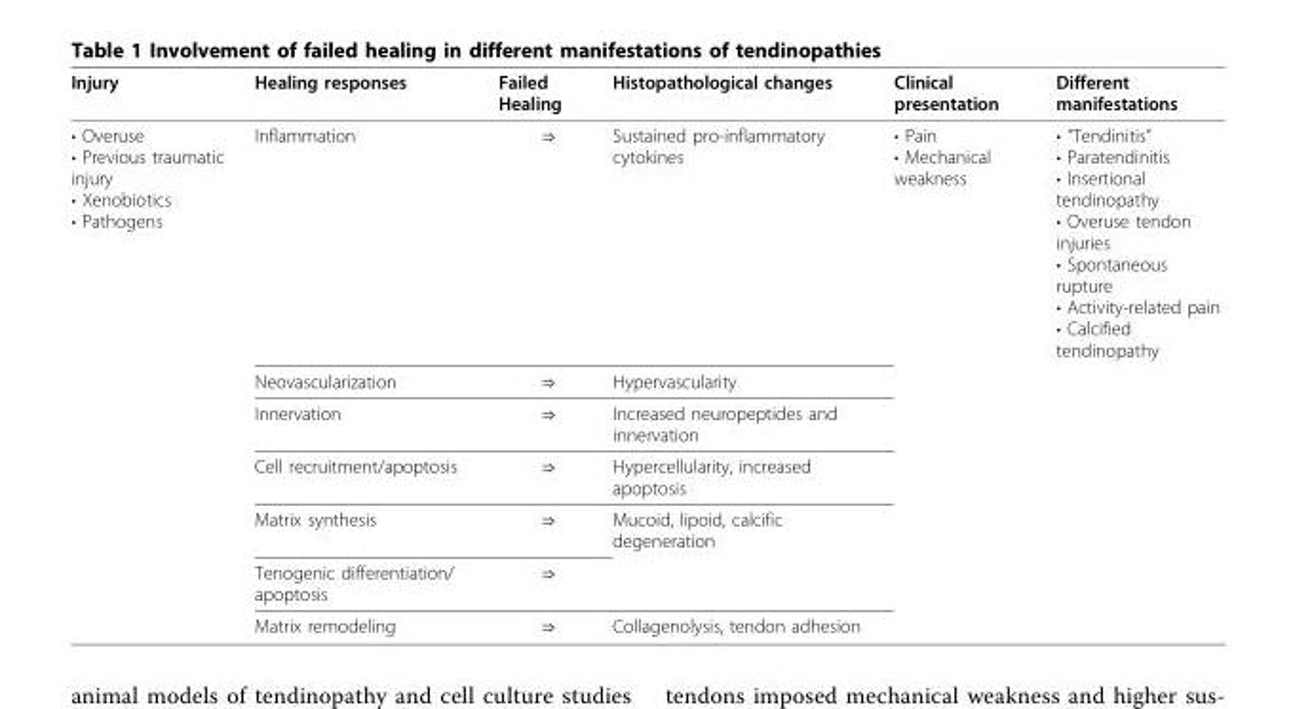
<table><thead><tr><td>Injury</td><td>Healing responses</td><td>Failed Healing</td><td>Histopathological changes</td><td>Clinical presentation</td><td>Different manifestations</td></tr></thead><tbody><tr><td rowspan="7">• Overuse • Previous traumatic injury • Xenobiotics • Pathogens</td><td>Inflammation</td><td>⇒</td><td>Sustained pro-inflammatory cytokines</td><td>• Pain • Mechanical weakness</td><td>• “Tendinitis” • Paratendinitis • Insertional tendinopathy • Overuse tendon injuries • Spontaneous rupture • Activity-related pain • Calcified tendinopathy</td></tr><tr><td>Neovascularization</td><td>⇒</td><td>Hypervascularity</td><td></td><td></td></tr><tr><td>Innervation</td><td>⇒</td><td>Increased neuropeptides and innervation</td><td></td><td></td></tr><tr><td>Cell recruitment/apoptosis</td><td>⇒</td><td>Hypercellularity, increased apoptosis</td><td></td><td></td></tr><tr><td>Matrix synthesis</td><td>⇒</td><td>Mucoid, lipoid, calcific degeneration</td><td></td><td></td></tr><tr><td>Tenogenic differentiation/ apoptosis</td><td>⇒</td><td></td><td></td><td></td></tr><tr><td>Matrix remodeling</td><td>⇒</td><td>Collagenolysis, tendon adhesion</td><td></td><td></td></tr></tbody></table>